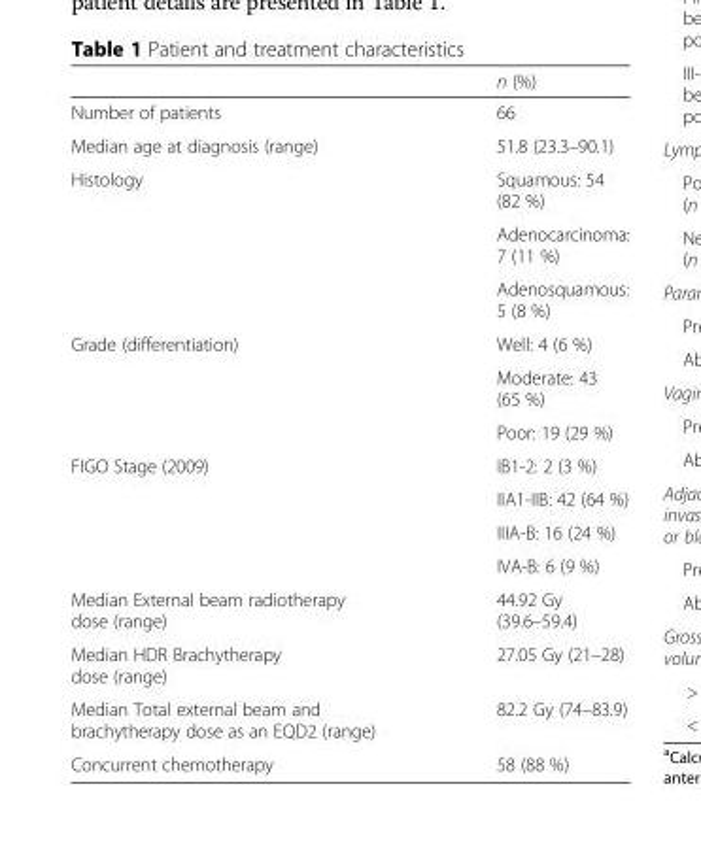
<table><thead><tr><td></td><td>n (%)</td></tr></thead><tbody><tr><td>Number of patients</td><td>66</td></tr><tr><td>Median age at diagnosis (range)</td><td>51.8 (23.3–90.1)</td></tr><tr><td rowspan="3">Histology</td><td>Squamous: 54 (82 %)</td></tr><tr><td>Adenocarcinoma: 7 (11 %)</td></tr><tr><td>Adenosquamous: 5 (8 %)</td></tr><tr><td rowspan="3">Grade (differentiation)</td><td>Well: 4 (6 %)</td></tr><tr><td>Moderate: 43 (65 %)</td></tr><tr><td>Poor: 19 (29 %)</td></tr><tr><td rowspan="4">FIGO Stage (2009)</td><td>IB1-2: 2 (3 %)</td></tr><tr><td>IIA1-IIB: 42 (64 %)</td></tr><tr><td>IIIA-B: 16 (24 %)</td></tr><tr><td>IVA-B: 6 (9 %)</td></tr><tr><td>Median External beam radiotherapy dose (range)</td><td>44.92 Gy (39.6–59.4)</td></tr><tr><td>Median HDR Brachytherapy dose (range)</td><td>27.05 Gy (21–28)</td></tr><tr><td>Median Total external beam and brachytherapy dose as an EQD2 (range)</td><td>82.2 Gy (74–83.9)</td></tr><tr><td>Concurrent chemotherapy</td><td>58 (88 %)</td></tr></tbody></table>